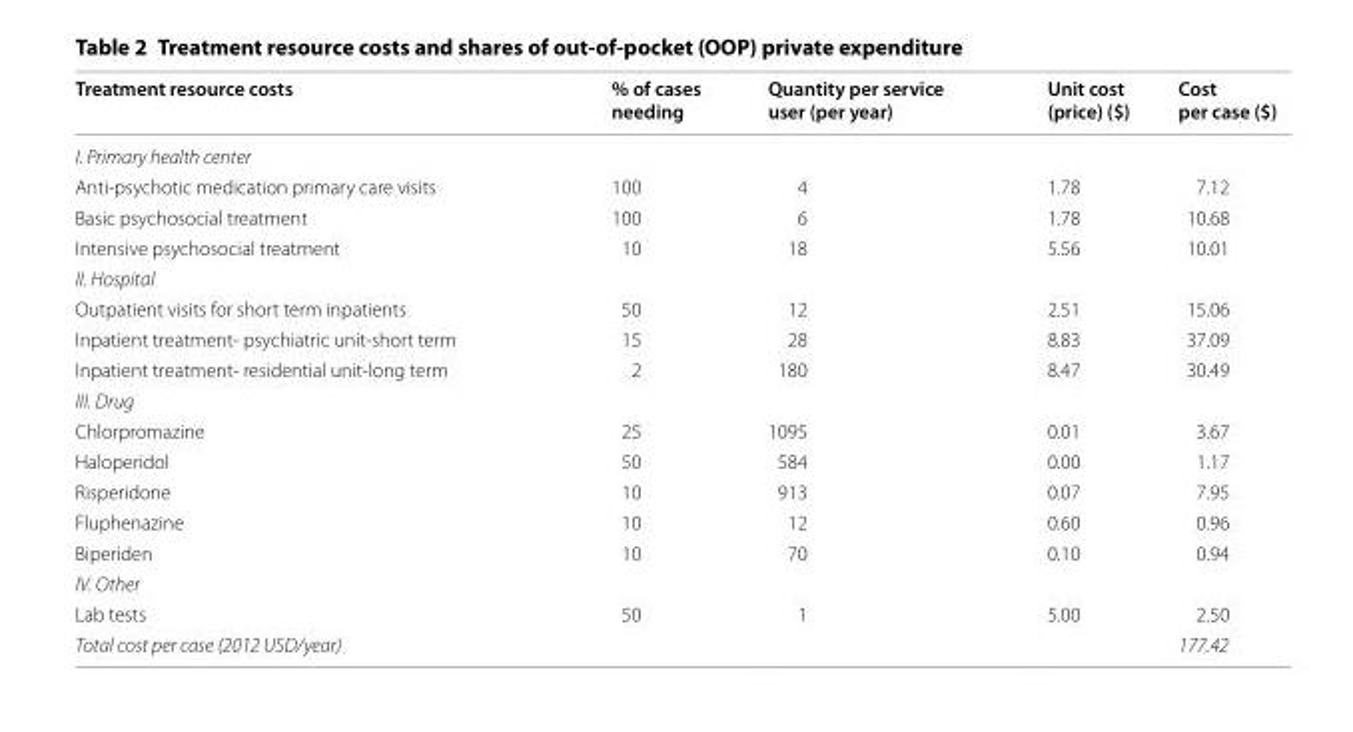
<table><thead><tr><td>Treatment resource costs</td><td>% of cases needing</td><td>Quantity per service user (per year)</td><td>Unit cost (price) ($)</td><td>Cost per case ($)</td></tr></thead><tbody><tr><td colspan="5">I. Primary health center</td></tr><tr><td>Anti-psychotic medication primary care visits</td><td>100</td><td>4</td><td>1.78</td><td>7.12</td></tr><tr><td>Basic psychosocial treatment</td><td>100</td><td>6</td><td>1.78</td><td>10.68</td></tr><tr><td>Intensive psychosocial treatment</td><td>10</td><td>18</td><td>5.56</td><td>10.01</td></tr><tr><td colspan="5">II. Hospital</td></tr><tr><td>Outpatient visits for short term inpatients</td><td>50</td><td>12</td><td>2.51</td><td>15.06</td></tr><tr><td>Inpatient treatment- psychiatric unit-short term</td><td>15</td><td>28</td><td>8.83</td><td>37.09</td></tr><tr><td>Inpatient treatment- residential unit-long term</td><td>2</td><td>180</td><td>8.47</td><td>30.49</td></tr><tr><td colspan="5">III. Drug</td></tr><tr><td>Chlorpromazine</td><td>25</td><td>1095</td><td>0.01</td><td>3.67</td></tr><tr><td>Haloperidol</td><td>50</td><td>584</td><td>0.00</td><td>1.17</td></tr><tr><td>Risperidone</td><td>10</td><td>913</td><td>0.07</td><td>7.95</td></tr><tr><td>Fluphenazine</td><td>10</td><td>12</td><td>0.60</td><td>0.96</td></tr><tr><td>Biperiden</td><td>10</td><td>70</td><td>0.10</td><td>0.94</td></tr><tr><td colspan="5">IV. Other</td></tr><tr><td>Lab tests</td><td>50</td><td>1</td><td>5.00</td><td>2.50</td></tr><tr><td>Total cost per case (2012 USD/year)</td><td></td><td></td><td></td><td>177.42</td></tr></tbody></table>